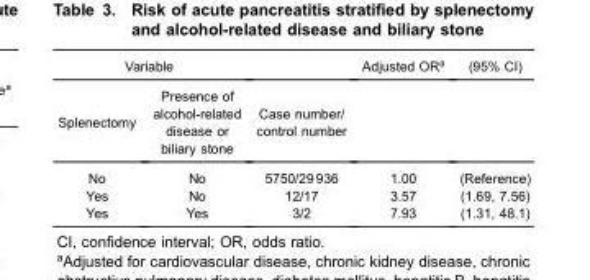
<table><thead><tr><td colspan="2">Variable</td><td rowspan="2">Case number/ control number</td><td rowspan="2">Adjusted OR<sup>a</sup></td><td rowspan="2">(95% CI)</td></tr><tr><td>Splenectomy</td><td>Presence of alcohol-related disease or biliary stone</td></tr></thead><tbody><tr><td>No</td><td>No</td><td>5750/29 936</td><td>1.00</td><td>(Reference)</td></tr><tr><td>Yes</td><td>No</td><td>12/17</td><td>3.57</td><td>(1.69, 7.56)</td></tr><tr><td>Yes</td><td>Yes</td><td>3/2</td><td>7.93</td><td>(1.31, 48.1)</td></tr></tbody></table>